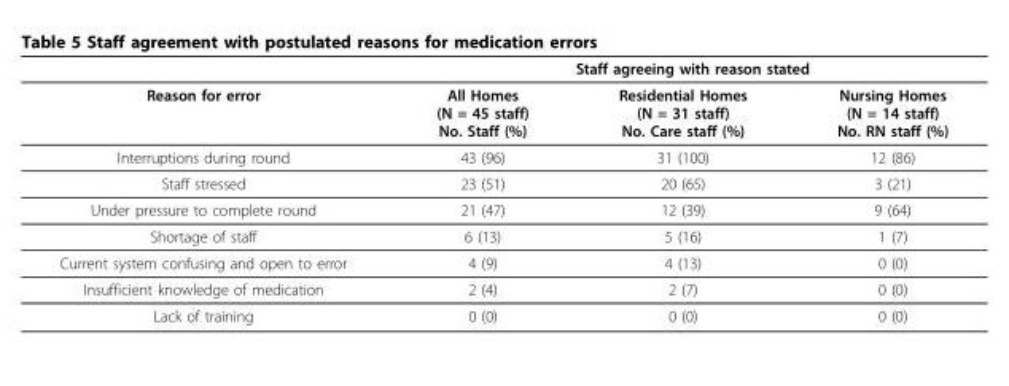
<table><thead><tr><td rowspan="2">Reason for error</td><td colspan="3">Staff agreeing with reason stated</td></tr><tr><td>All Homes (N = 45 staff) No. Staff (%)</td><td>Residential Homes (N = 31 staff) No. Care staff (%)</td><td>Nursing Homes (N = 14 staff) No. RN staff (%)</td></tr></thead><tbody><tr><td>Interruptions during round</td><td>43 (96)</td><td>31 (100)</td><td>12 (86)</td></tr><tr><td>Staff stressed</td><td>23 (51)</td><td>20 (65)</td><td>3 (21)</td></tr><tr><td>Under pressure to complete round</td><td>21 (47)</td><td>12 (39)</td><td>9 (64)</td></tr><tr><td>Shortage of staff</td><td>6 (13)</td><td>5 (16)</td><td>1 (7)</td></tr><tr><td>Current system confusing and open to error</td><td>4 (9)</td><td>4 (13)</td><td>0 (0)</td></tr><tr><td>Insufficient knowledge of medication</td><td>2 (4)</td><td>2 (7)</td><td>0 (0)</td></tr><tr><td>Lack of training</td><td>0 (0)</td><td>0 (0)</td><td>0 (0)</td></tr></tbody></table>